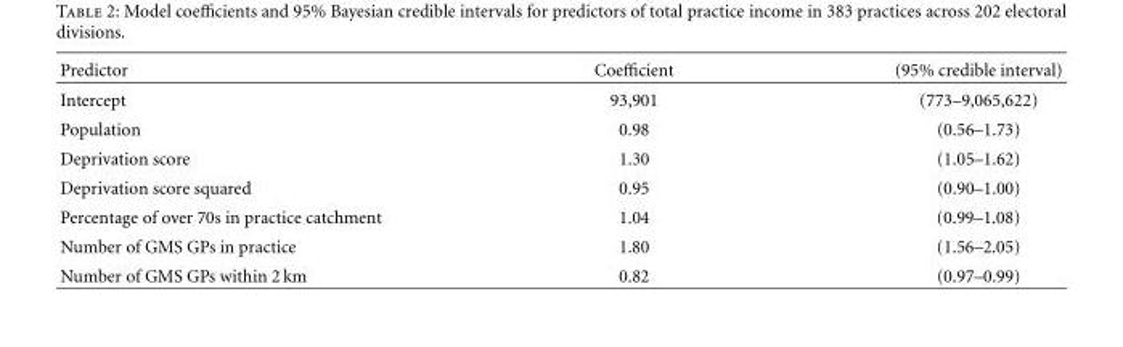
<table><thead><tr><td>Predictor</td><td>Coefficient</td><td>(95% credible interval)</td></tr></thead><tbody><tr><td>Intercept</td><td>93,901</td><td>(773–9,065,622)</td></tr><tr><td>Population</td><td>0.98</td><td>(0.56–1.73)</td></tr><tr><td>Deprivation score</td><td>1.30</td><td>(1.05–1.62)</td></tr><tr><td>Deprivation score squared</td><td>0.95</td><td>(0.90–1.00)</td></tr><tr><td>Percentage of over 70s in practice catchment</td><td>1.04</td><td>(0.99–1.08)</td></tr><tr><td>Number of GMS GPs in practice</td><td>1.80</td><td>(1.56–2.05)</td></tr><tr><td>Number of GMS GPs within 2 km</td><td>0.82</td><td>(0.97–0.99)</td></tr></tbody></table>